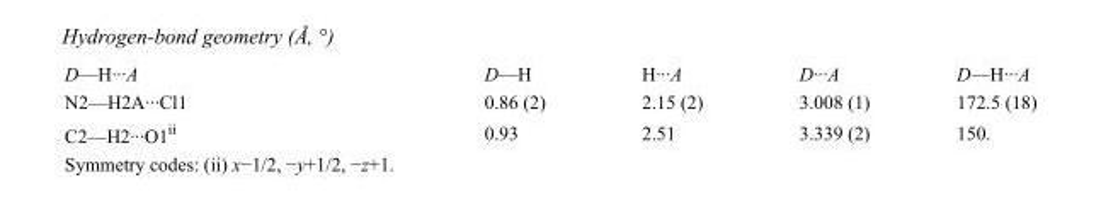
<table><tbody><tr><td>D—H···A</td><td>D—H</td><td>H···A</td><td>D···A</td><td>D—H···A</td></tr><tr><td>N2—H2A···Cl1</td><td>0.86 (2)</td><td>2.15 (2)</td><td>3.008 (1)</td><td>172.5 (18)</td></tr><tr><td>C2—H2···O1<sup>ii</sup></td><td>0.93</td><td>2.51</td><td>3.339 (2)</td><td>150.</td></tr></tbody></table>